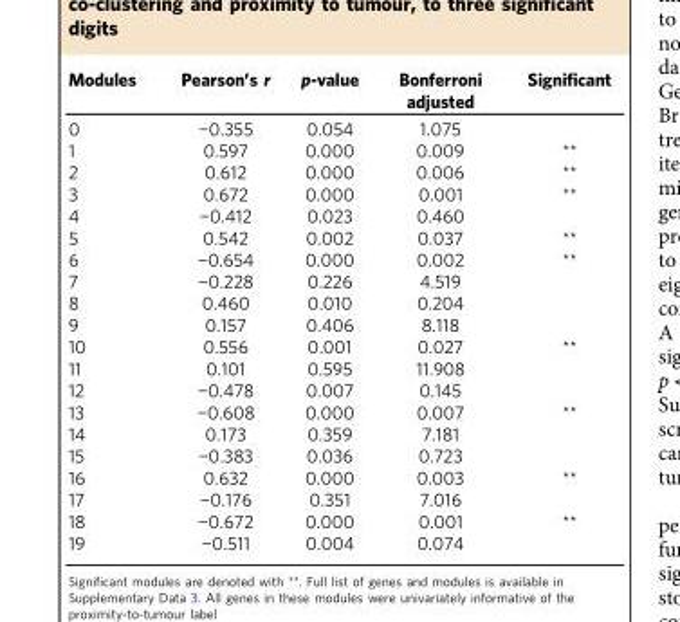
<table><thead><tr><td>Modules</td><td>Pearson’s r</td><td>p-value</td><td>Bonferroni adjusted</td><td>Significant</td></tr></thead><tbody><tr><td>0</td><td>−0.355</td><td>0.054</td><td>1.075</td><td></td></tr><tr><td>1</td><td>0.597</td><td>0.000</td><td>0.009</td><td>**</td></tr><tr><td>2</td><td>0.612</td><td>0.000</td><td>0.006</td><td>**</td></tr><tr><td>3</td><td>0.672</td><td>0.000</td><td>0.001</td><td>**</td></tr><tr><td>4</td><td>−0.412</td><td>0.023</td><td>0.460</td><td></td></tr><tr><td>5</td><td>0.542</td><td>0.002</td><td>0.037</td><td>**</td></tr><tr><td>6</td><td>−0.654</td><td>0.000</td><td>0.002</td><td>**</td></tr><tr><td>7</td><td>−0.228</td><td>0.226</td><td>4.519</td><td></td></tr><tr><td>8</td><td>0.460</td><td>0.010</td><td>0.204</td><td></td></tr><tr><td>9</td><td>0.157</td><td>0.406</td><td>8.118</td><td></td></tr><tr><td>10</td><td>0.556</td><td>0.001</td><td>0.027</td><td>**</td></tr><tr><td>11</td><td>0.101</td><td>0.595</td><td>11.908</td><td></td></tr><tr><td>12</td><td>−0.478</td><td>0.007</td><td>0.145</td><td></td></tr><tr><td>13</td><td>−0.608</td><td>0.000</td><td>0.007</td><td>**</td></tr><tr><td>14</td><td>0.173</td><td>0.359</td><td>7.181</td><td></td></tr><tr><td>15</td><td>−0.383</td><td>0.036</td><td>0.723</td><td></td></tr><tr><td>16</td><td>0.632</td><td>0.000</td><td>0.003</td><td>**</td></tr><tr><td>17</td><td>−0.176</td><td>0.351</td><td>7.016</td><td></td></tr><tr><td>18</td><td>−0.672</td><td>0.000</td><td>0.001</td><td>**</td></tr><tr><td>19</td><td>−0.511</td><td>0.004</td><td>0.074</td><td></td></tr></tbody></table>